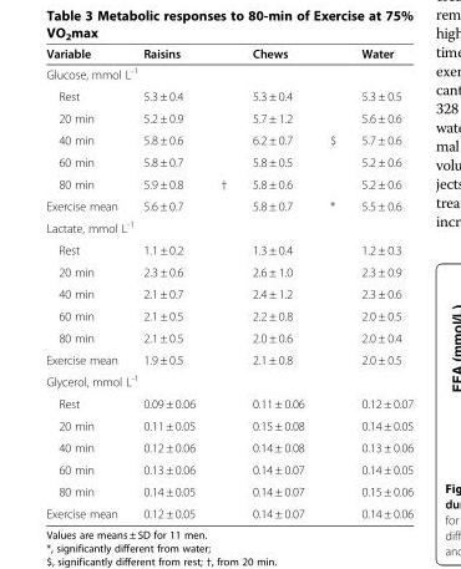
<table><thead><tr><td>Variable</td><td>Raisins</td><td></td><td>Chews</td><td></td><td>Water</td></tr></thead><tbody><tr><td colspan="6">Glucose, mmol L<sup>-1</sup></td></tr><tr><td>Rest</td><td>5.3 ± 0.4</td><td></td><td>5.3 ± 0.4</td><td></td><td>5.3 ± 0.5</td></tr><tr><td>20 min</td><td>5.2 ± 0.9</td><td></td><td>5.7 ± 1.2</td><td></td><td>5.6 ± 0.6</td></tr><tr><td>40 min</td><td>5.8 ± 0.6</td><td></td><td>6.2 ± 0.7</td><td>$</td><td>5.7 ± 0.6</td></tr><tr><td>60 min</td><td>5.8 ± 0.7</td><td></td><td>5.8 ± 0.5</td><td></td><td>5.2 ± 0.6</td></tr><tr><td>80 min</td><td>5.9 ± 0.8</td><td>†</td><td>5.8 ± 0.6</td><td></td><td>5.2 ± 0.6</td></tr><tr><td>Exercise mean</td><td>5.6 ± 0.7</td><td></td><td>5.8 ± 0.7</td><td>*</td><td>5.5 ± 0.6</td></tr><tr><td colspan="6">Lactate, mmol L<sup>-1</sup></td></tr><tr><td>Rest</td><td>1.1 ± 0.2</td><td></td><td>1.3 ± 0.4</td><td></td><td>1.2 ± 0.3</td></tr><tr><td>20 min</td><td>2.3 ± 0.6</td><td></td><td>2.6 ± 1.0</td><td></td><td>2.3 ± 0.9</td></tr><tr><td>40 min</td><td>2.1 ± 0.7</td><td></td><td>2.4 ± 1.2</td><td></td><td>2.3 ± 0.6</td></tr><tr><td>60 min</td><td>2.1 ± 0.5</td><td></td><td>2.2 ± 0.8</td><td></td><td>2.0 ± 0.5</td></tr><tr><td>80 min</td><td>2.1 ± 0.5</td><td></td><td>2.0 ± 0.6</td><td></td><td>2.0 ± 0.4</td></tr><tr><td>Exercise mean</td><td>1.9 ± 0.5</td><td></td><td>2.1 ± 0.8</td><td></td><td>2.0 ± 0.5</td></tr><tr><td colspan="6">Glycerol, mmol L<sup>-1</sup></td></tr><tr><td>Rest</td><td>0.09 ± 0.06</td><td></td><td>0.11 ± 0.06</td><td></td><td>0.12 ± 0.07</td></tr><tr><td>20 min</td><td>0.11 ± 0.05</td><td></td><td>0.15 ± 0.08</td><td></td><td>0.14 ± 0.05</td></tr><tr><td>40 min</td><td>0.12 ± 0.06</td><td></td><td>0.14 ± 0.08</td><td></td><td>0.13 ± 0.06</td></tr><tr><td>60 min</td><td>0.13 ± 0.06</td><td></td><td>0.14 ± 0.07</td><td></td><td>0.14 ± 0.05</td></tr><tr><td>80 min</td><td>0.14 ± 0.05</td><td></td><td>0.14 ± 0.07</td><td></td><td>0.15 ± 0.06</td></tr><tr><td>Exercise mean</td><td>0.12 ± 0.05</td><td></td><td>0.14 ± 0.07</td><td></td><td>0.14 ± 0.06</td></tr></tbody></table>